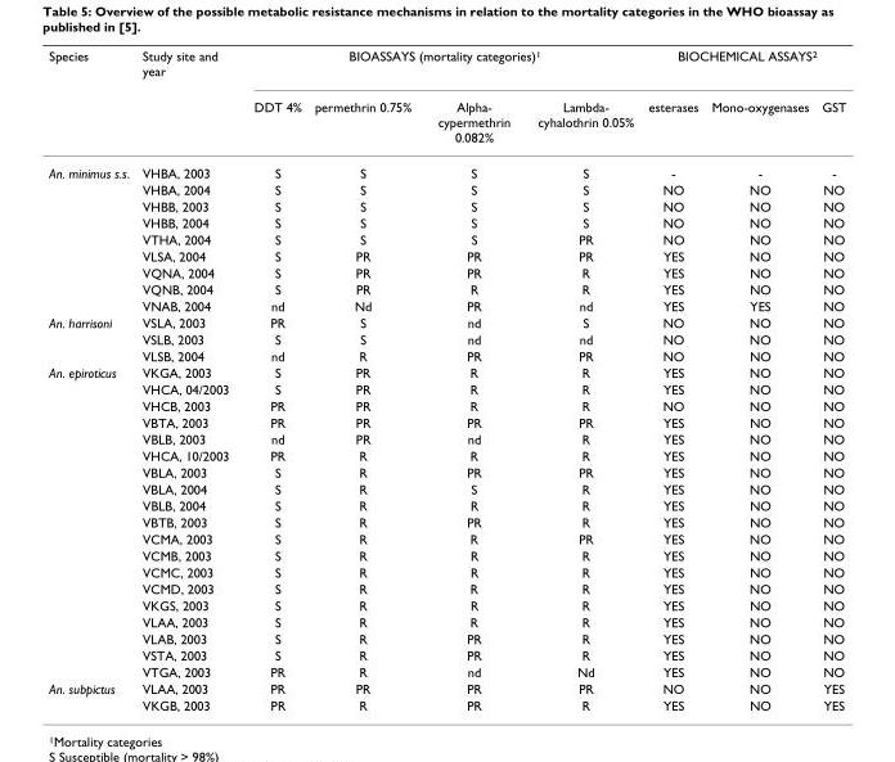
<table><thead><tr><td rowspan="2">Species</td><td rowspan="2">Study site and year</td><td colspan="4">BIOASSAYS (mortality categories)<sup>1</sup></td><td colspan="3">BIOCHEMICAL ASSAYS<sup>2</sup></td></tr><tr><td>DDT 4%</td><td>permethrin 0.75%</td><td>Alpha- cypermethrin 0.082%</td><td>Lambda- cyhalothrin 0.05%</td><td>esterases</td><td>Mono-oxygenases</td><td>GST</td></tr></thead><tbody><tr><td rowspan="9">An. minimus s.s.</td><td>VHBA, 2003</td><td>S</td><td>S</td><td>S</td><td>S</td><td>-</td><td>-</td><td>-</td></tr><tr><td>VHBA, 2004</td><td>S</td><td>S</td><td>S</td><td>S</td><td>NO</td><td>NO</td><td>NO</td></tr><tr><td>VHBB, 2003</td><td>S</td><td>S</td><td>S</td><td>S</td><td>NO</td><td>NO</td><td>NO</td></tr><tr><td>VHBB, 2004</td><td>S</td><td>S</td><td>S</td><td>S</td><td>NO</td><td>NO</td><td>NO</td></tr><tr><td>VTHA, 2004</td><td>S</td><td>S</td><td>S</td><td>PR</td><td>NO</td><td>NO</td><td>NO</td></tr><tr><td>VLSA, 2004</td><td>S</td><td>PR</td><td>PR</td><td>PR</td><td>YES</td><td>NO</td><td>NO</td></tr><tr><td>VQNA, 2004</td><td>S</td><td>PR</td><td>PR</td><td>R</td><td>YES</td><td>NO</td><td>NO</td></tr><tr><td>VQNB, 2004</td><td>S</td><td>PR</td><td>R</td><td>R</td><td>YES</td><td>NO</td><td>NO</td></tr><tr><td>VNAB, 2004</td><td>nd</td><td>Nd</td><td>PR</td><td>nd</td><td>YES</td><td>YES</td><td>NO</td></tr><tr><td rowspan="3">An. harrisoni</td><td>VSLA, 2003</td><td>PR</td><td>S</td><td>nd</td><td>S</td><td>NO</td><td>NO</td><td>NO</td></tr><tr><td>VSLB, 2003</td><td>S</td><td>S</td><td>nd</td><td>nd</td><td>NO</td><td>NO</td><td>NO</td></tr><tr><td>VLSB, 2004</td><td>nd</td><td>R</td><td>PR</td><td>PR</td><td>NO</td><td>NO</td><td>NO</td></tr><tr><td rowspan="19">An. epiroticus</td><td>VKGA, 2003</td><td>S</td><td>PR</td><td>R</td><td>R</td><td>YES</td><td>NO</td><td>NO</td></tr><tr><td>VHCA, 04/2003</td><td>S</td><td>PR</td><td>R</td><td>R</td><td>YES</td><td>NO</td><td>NO</td></tr><tr><td>VHCB, 2003</td><td>PR</td><td>PR</td><td>R</td><td>R</td><td>NO</td><td>NO</td><td>NO</td></tr><tr><td>VBTA, 2003</td><td>PR</td><td>PR</td><td>PR</td><td>PR</td><td>YES</td><td>NO</td><td>NO</td></tr><tr><td>VBLB, 2003</td><td>nd</td><td>PR</td><td>nd</td><td>R</td><td>YES</td><td>NO</td><td>NO</td></tr><tr><td>VHCA, 10/2003</td><td>PR</td><td>R</td><td>R</td><td>R</td><td>YES</td><td>NO</td><td>NO</td></tr><tr><td>VBLA, 2003</td><td>S</td><td>R</td><td>PR</td><td>PR</td><td>YES</td><td>NO</td><td>NO</td></tr><tr><td>VBLA, 2004</td><td>S</td><td>R</td><td>S</td><td>R</td><td>YES</td><td>NO</td><td>NO</td></tr><tr><td>VBLB, 2004</td><td>S</td><td>R</td><td>R</td><td>R</td><td>YES</td><td>NO</td><td>NO</td></tr><tr><td>VBTB, 2003</td><td>S</td><td>R</td><td>PR</td><td>R</td><td>YES</td><td>NO</td><td>NO</td></tr><tr><td>VCMA, 2003</td><td>S</td><td>R</td><td>R</td><td>PR</td><td>YES</td><td>NO</td><td>NO</td></tr><tr><td>VCMB, 2003</td><td>S</td><td>R</td><td>R</td><td>R</td><td>YES</td><td>NO</td><td>NO</td></tr><tr><td>VCMC, 2003</td><td>S</td><td>R</td><td>R</td><td>R</td><td>YES</td><td>NO</td><td>NO</td></tr><tr><td>VCMD, 2003</td><td>S</td><td>R</td><td>R</td><td>R</td><td>YES</td><td>NO</td><td>NO</td></tr><tr><td>VKGS, 2003</td><td>S</td><td>R</td><td>R</td><td>R</td><td>YES</td><td>NO</td><td>NO</td></tr><tr><td>VLAA, 2003</td><td>S</td><td>R</td><td>R</td><td>R</td><td>YES</td><td>NO</td><td>NO</td></tr><tr><td>VLAB, 2003</td><td>S</td><td>R</td><td>PR</td><td>R</td><td>YES</td><td>NO</td><td>NO</td></tr><tr><td>VSTA, 2003</td><td>S</td><td>R</td><td>PR</td><td>R</td><td>YES</td><td>NO</td><td>NO</td></tr><tr><td>VTGA, 2003</td><td>PR</td><td>R</td><td>nd</td><td>Nd</td><td>YES</td><td>NO</td><td>NO</td></tr><tr><td rowspan="2">An. subpictus</td><td>VLAA, 2003</td><td>PR</td><td>PR</td><td>PR</td><td>PR</td><td>NO</td><td>NO</td><td>YES</td></tr><tr><td>VKGB, 2003</td><td>PR</td><td>R</td><td>PR</td><td>R</td><td>YES</td><td>NO</td><td>YES</td></tr></tbody></table>